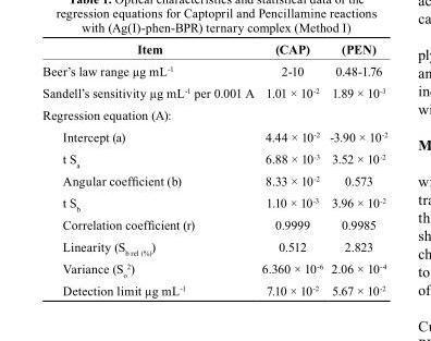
<table><thead><tr><td>Item</td><td>(cAP)</td><td>(PEN)</td></tr></thead><tbody><tr><td>Beer’s law range µg mL<sup>-1</sup></td><td>2-10</td><td>0.48-1.76</td></tr><tr><td>Sandell’s sensitivity µg mL<sup>-1</sup> per 0.001 A</td><td>1.01 × 10<sup>-2</sup></td><td>1.89 × 10<sup>-3</sup></td></tr><tr><td colspan="3">Regression equation (A):</td></tr><tr><td>Intercept (a)</td><td>4.44 × 10<sup>-2</sup></td><td>-3.90 × 10<sup>-2</sup></td></tr><tr><td>t S<sub>a</sub></td><td>6.88 × 10<sup>-3</sup></td><td>3.52 × 10<sup>-2</sup></td></tr><tr><td>Angular coefficient (b)</td><td>8.33 × 10<sup>-2</sup></td><td>0.573</td></tr><tr><td>t S<sub>b</sub></td><td>1.10 × 10<sup>-3</sup></td><td>3.96 × 10<sup>-2</sup></td></tr><tr><td>Correlation coefficient (r)</td><td>0.9999</td><td>0.9985</td></tr><tr><td>Linearity (S<sub>b rel (%)</sub>)</td><td>0.512</td><td>2.823</td></tr><tr><td>Variance (S<sub>o</sub> <sup>2</sup>)</td><td>6.360 × 10<sup>-6</sup></td><td>2.06 × 10<sup>-4</sup></td></tr><tr><td>Detection limit µg mL<sup>-1</sup></td><td>7.10 × 10<sup>-2</sup></td><td>5.67 × 10<sup>-2</sup></td></tr></tbody></table>